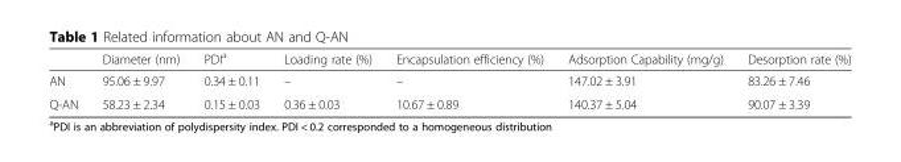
<table><thead><tr><td></td><td>Diameter (nm)</td><td>PDI<sup>a</sup></td><td>Loading rate (%)</td><td>Encapsulation efficiency (%)</td><td>Adsorption Capability (mg/g)</td><td>Desorption rate (%)</td></tr></thead><tbody><tr><td>AN</td><td>95.06 ± 9.97</td><td>0.34 ± 0.11</td><td>–</td><td>–</td><td>147.02 ± 3.91</td><td>83.26 ± 7.46</td></tr><tr><td>Q-AN</td><td>58.23 ± 2.34</td><td>0.15 ± 0.03</td><td>0.36 ± 0.03</td><td>10.67 ± 0.89</td><td>140.37 ± 5.04</td><td>90.07 ± 3.39</td></tr></tbody></table>